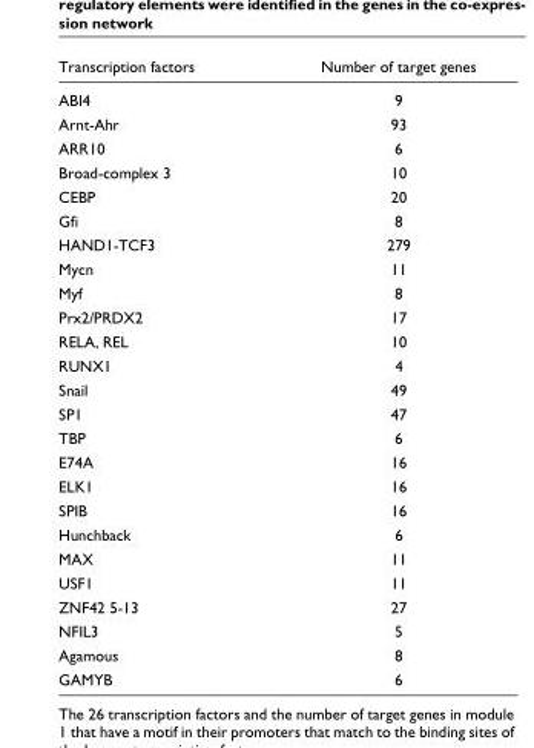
<table><thead><tr><td>Transcription factors</td><td>Number of target genes</td></tr></thead><tbody><tr><td>ABI4</td><td>9</td></tr><tr><td>Arnt-Ahr</td><td>93</td></tr><tr><td>ARR10</td><td>6</td></tr><tr><td>Broad-complex 3</td><td>10</td></tr><tr><td>CEBP</td><td>20</td></tr><tr><td>Gfi</td><td>8</td></tr><tr><td>HAND1-TCF3</td><td>279</td></tr><tr><td>Mycn</td><td>11</td></tr><tr><td>Myf</td><td>8</td></tr><tr><td>Prx2/PRDX2</td><td>17</td></tr><tr><td>RELA, REL</td><td>10</td></tr><tr><td>RUNX1</td><td>4</td></tr><tr><td>Snail</td><td>49</td></tr><tr><td>SP1</td><td>47</td></tr><tr><td>TBP</td><td>6</td></tr><tr><td>E74A</td><td>16</td></tr><tr><td>ELK1</td><td>16</td></tr><tr><td>SPIB</td><td>16</td></tr><tr><td>Hunchback</td><td>6</td></tr><tr><td>MAX</td><td>11</td></tr><tr><td>USF1</td><td>11</td></tr><tr><td>ZNF42 5-13</td><td>27</td></tr><tr><td>NFIL3</td><td>5</td></tr><tr><td>Agamous</td><td>8</td></tr><tr><td>GAMYB</td><td>6</td></tr></tbody></table>